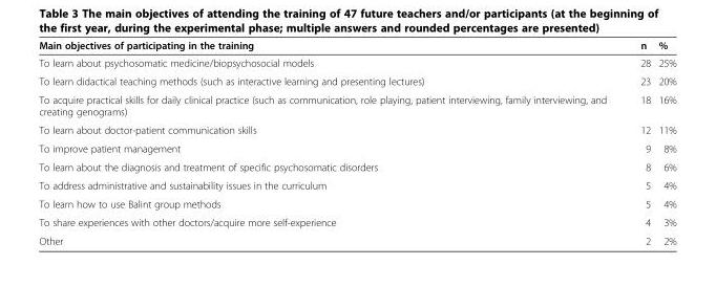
<table><thead><tr><td>Main objectives of participating in the training</td><td>n</td><td>%</td></tr></thead><tbody><tr><td>To learn about psychosomatic medicine/biopsychosocial models</td><td>28</td><td>25%</td></tr><tr><td>To learn didactical teaching methods (such as interactive learning and presenting lectures)</td><td>23</td><td>20%</td></tr><tr><td>To acquire practical skills for daily clinical practice (such as communication, role playing, patient interviewing, family interviewing, and creating genograms)</td><td>18</td><td>16%</td></tr><tr><td>To learn about doctor-patient communication skills</td><td>12</td><td>11%</td></tr><tr><td>To improve patient management</td><td>9</td><td>8%</td></tr><tr><td>To learn about the diagnosis and treatment of specific psychosomatic disorders</td><td>8</td><td>6%</td></tr><tr><td>To address administrative and sustainability issues in the curriculum</td><td>5</td><td>4%</td></tr><tr><td>To learn how to use Balint group methods</td><td>5</td><td>4%</td></tr><tr><td>To share experiences with other doctors/acquire more self-experience</td><td>4</td><td>3%</td></tr><tr><td>Other</td><td>2</td><td>2%</td></tr></tbody></table>